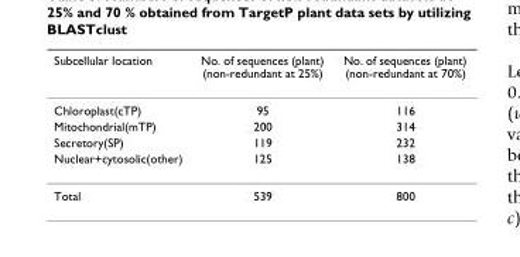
<table><thead><tr><td>Subcellular location</td><td>No. of sequences (plant) (non-redundant at 25%)</td><td>No. of sequences (plant) (non-redundant at 70%)</td></tr></thead><tbody><tr><td>Chloroplast(cTP)</td><td>95</td><td>116</td></tr><tr><td>Mitochondrial(mTP)</td><td>200</td><td>314</td></tr><tr><td>Secretory(SP)</td><td>119</td><td>232</td></tr><tr><td>Nuclear+cytosolic(other)</td><td>125</td><td>138</td></tr><tr><td>Total</td><td>539</td><td>800</td></tr></tbody></table>